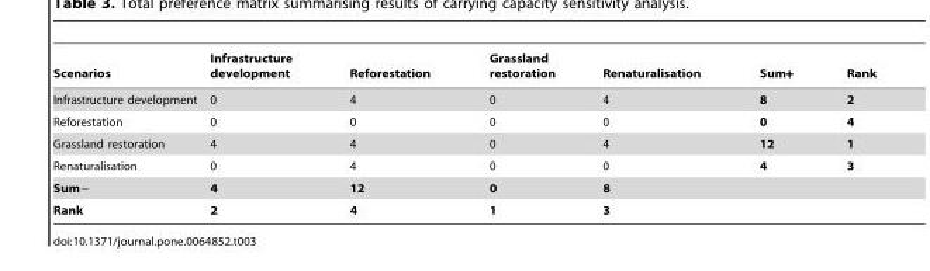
<table><thead><tr><td>Scenarios</td><td>Infrastructure development</td><td>Reforestation</td><td>Grassland restoration</td><td>Renaturalisation</td><td>Sum+</td><td>Rank</td></tr></thead><tbody><tr><td>Infrastructure development</td><td>0</td><td>4</td><td>0</td><td>4</td><td>8</td><td>2</td></tr><tr><td>Reforestation</td><td>0</td><td>0</td><td>0</td><td>0</td><td>0</td><td>4</td></tr><tr><td>Grassland restoration</td><td>4</td><td>4</td><td>0</td><td>4</td><td>12</td><td>1</td></tr><tr><td>Renaturalisation</td><td>0</td><td>4</td><td>0</td><td>0</td><td>4</td><td>3</td></tr><tr><td>Sum−</td><td>4</td><td>12</td><td>0</td><td>8</td><td></td><td></td></tr><tr><td>Rank</td><td>2</td><td>4</td><td>1</td><td>3</td><td></td><td></td></tr></tbody></table>